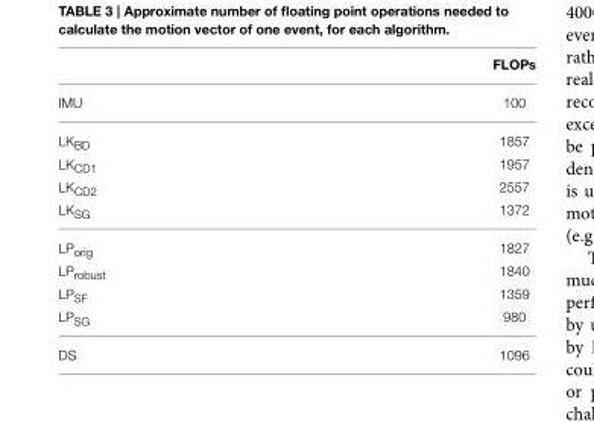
<table><thead><tr><td></td><td>FLOPs</td></tr></thead><tbody><tr><td>IMU</td><td>100</td></tr><tr><td>LK<sub>BD</sub></td><td>1857</td></tr><tr><td>LK<sub>CD1</sub></td><td>1957</td></tr><tr><td>LK<sub>CD2</sub></td><td>2557</td></tr><tr><td>LK<sub>SG</sub></td><td>1372</td></tr><tr><td>LP<sub>orig</sub></td><td>1827</td></tr><tr><td>LP<sub>robust</sub></td><td>1840</td></tr><tr><td>LP<sub>SF</sub></td><td>1359</td></tr><tr><td>LP<sub>SG</sub></td><td>980</td></tr><tr><td>DS</td><td>1096</td></tr></tbody></table>